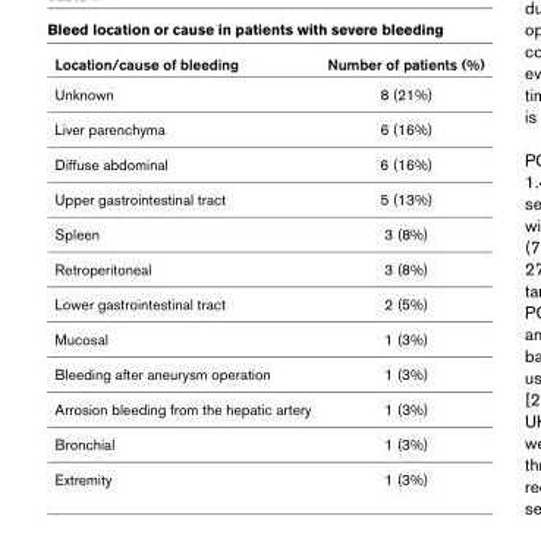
<table><thead><tr><td>Location/cause of bleeding</td><td>Number of patients (%)</td></tr></thead><tbody><tr><td>Unknown</td><td>8 (21%)</td></tr><tr><td>Liver parenchyma</td><td>6 (16%)</td></tr><tr><td>Diffuse abdominal</td><td>6 (16%)</td></tr><tr><td>Upper gastrointestinal tract</td><td>5 (13%)</td></tr><tr><td>Spleen</td><td>3 (8%)</td></tr><tr><td>Retroperitoneal</td><td>3 (8%)</td></tr><tr><td>Lower gastrointestinal tract</td><td>2 (5%)</td></tr><tr><td>Mucosal</td><td>1 (3%)</td></tr><tr><td>Bleeding after aneurysm operation</td><td>1 (3%)</td></tr><tr><td>Arrosion bleeding from the hepatic artery</td><td>1 (3%)</td></tr><tr><td>Bronchial</td><td>1 (3%)</td></tr><tr><td>Extremity</td><td>1 (3%)</td></tr></tbody></table>